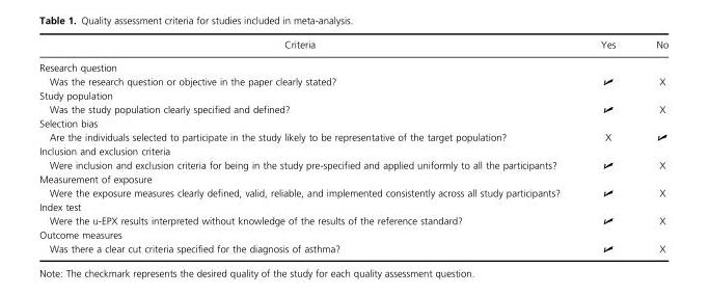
<table><thead><tr><td>Criteria</td><td>Yes</td><td>No</td></tr></thead><tbody><tr><td colspan="3">Research question</td></tr><tr><td>Was the research question or objective in the paper clearly stated?</td><td>✓</td><td>X</td></tr><tr><td colspan="3">Study population</td></tr><tr><td>Was the study population clearly specified and defined?</td><td>✓</td><td>X</td></tr><tr><td colspan="3">Selection bias</td></tr><tr><td>Are the individuals selected to participate in the study likely to be representative of the target population?</td><td>X</td><td>✓</td></tr><tr><td colspan="3">Inclusion and exclusion criteria</td></tr><tr><td>Were inclusion and exclusion criteria for being in the study pre-specified and applied uniformly to all the participants?</td><td>✓</td><td>X</td></tr><tr><td colspan="3">Measurement of exposure</td></tr><tr><td>Were the exposure measures clearly defined, valid, reliable, and implemented consistently across all study participants?</td><td>✓</td><td>X</td></tr><tr><td colspan="3">Index test</td></tr><tr><td>Were the u-EPX results interpreted without knowledge of the results of the reference standard?</td><td>✓</td><td>X</td></tr><tr><td colspan="3">Outcome measures</td></tr><tr><td>Was there a clear cut criteria specified for the diagnosis of asthma?</td><td>✓</td><td>X</td></tr></tbody></table>